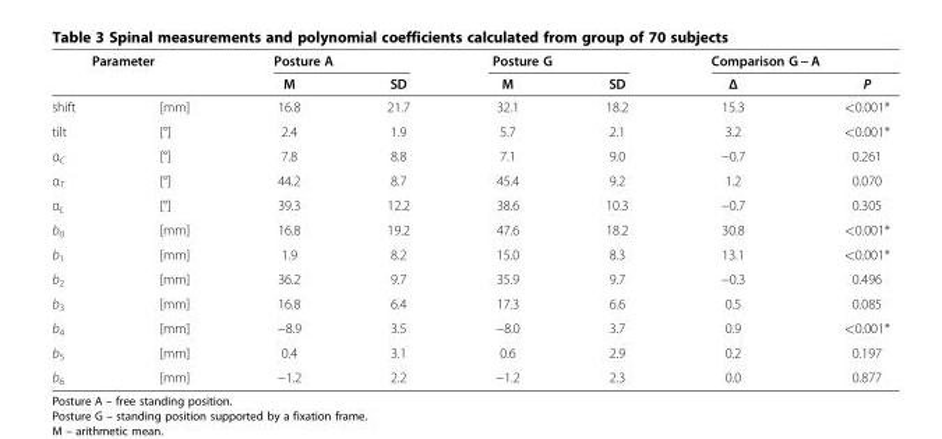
<table><thead><tr><td colspan="2">Parameter</td><td colspan="2">Posture A</td><td colspan="2">Posture G</td><td colspan="2">Comparison G − A</td></tr><tr><td></td><td></td><td>M</td><td>SD</td><td>M</td><td>SD</td><td>Δ</td><td>P</td></tr></thead><tbody><tr><td>shift</td><td>[mm]</td><td>16.8</td><td>21.7</td><td>32.1</td><td>18.2</td><td>15.3</td><td>&lt;0.001*</td></tr><tr><td>tilt</td><td>[°]</td><td>2.4</td><td>1.9</td><td>5.7</td><td>2.1</td><td>3.2</td><td>&lt;0.001*</td></tr><tr><td>α<sub>C</sub></td><td>[°]</td><td>7.8</td><td>8.8</td><td>7.1</td><td>9.0</td><td>−0.7</td><td>0.261</td></tr><tr><td>α<sub>T</sub></td><td>[°]</td><td>44.2</td><td>8.7</td><td>45.4</td><td>9.2</td><td>1.2</td><td>0.070</td></tr><tr><td>α<sub>L</sub></td><td>[°]</td><td>39.3</td><td>12.2</td><td>38.6</td><td>10.3</td><td>−0.7</td><td>0.305</td></tr><tr><td>b<sub>0</sub></td><td>[mm]</td><td>16.8</td><td>19.2</td><td>47.6</td><td>18.2</td><td>30.8</td><td>&lt;0.001*</td></tr><tr><td>b<sub>1</sub></td><td>[mm]</td><td>1.9</td><td>8.2</td><td>15.0</td><td>8.3</td><td>13.1</td><td>&lt;0.001*</td></tr><tr><td>b<sub>2</sub></td><td>[mm]</td><td>36.2</td><td>9.7</td><td>35.9</td><td>9.7</td><td>−0.3</td><td>0.496</td></tr><tr><td>b<sub>3</sub></td><td>[mm]</td><td>16.8</td><td>6.4</td><td>17.3</td><td>6.6</td><td>0.5</td><td>0.085</td></tr><tr><td>b<sub>4</sub></td><td>[mm]</td><td>−8.9</td><td>3.5</td><td>−8.0</td><td>3.7</td><td>0.9</td><td>&lt;0.001*</td></tr><tr><td>b<sub>5</sub></td><td>[mm]</td><td>0.4</td><td>3.1</td><td>0.6</td><td>2.9</td><td>0.2</td><td>0.197</td></tr><tr><td>b<sub>6</sub></td><td>[mm]</td><td>−1.2</td><td>2.2</td><td>−1.2</td><td>2.3</td><td>0.0</td><td>0.877</td></tr></tbody></table>